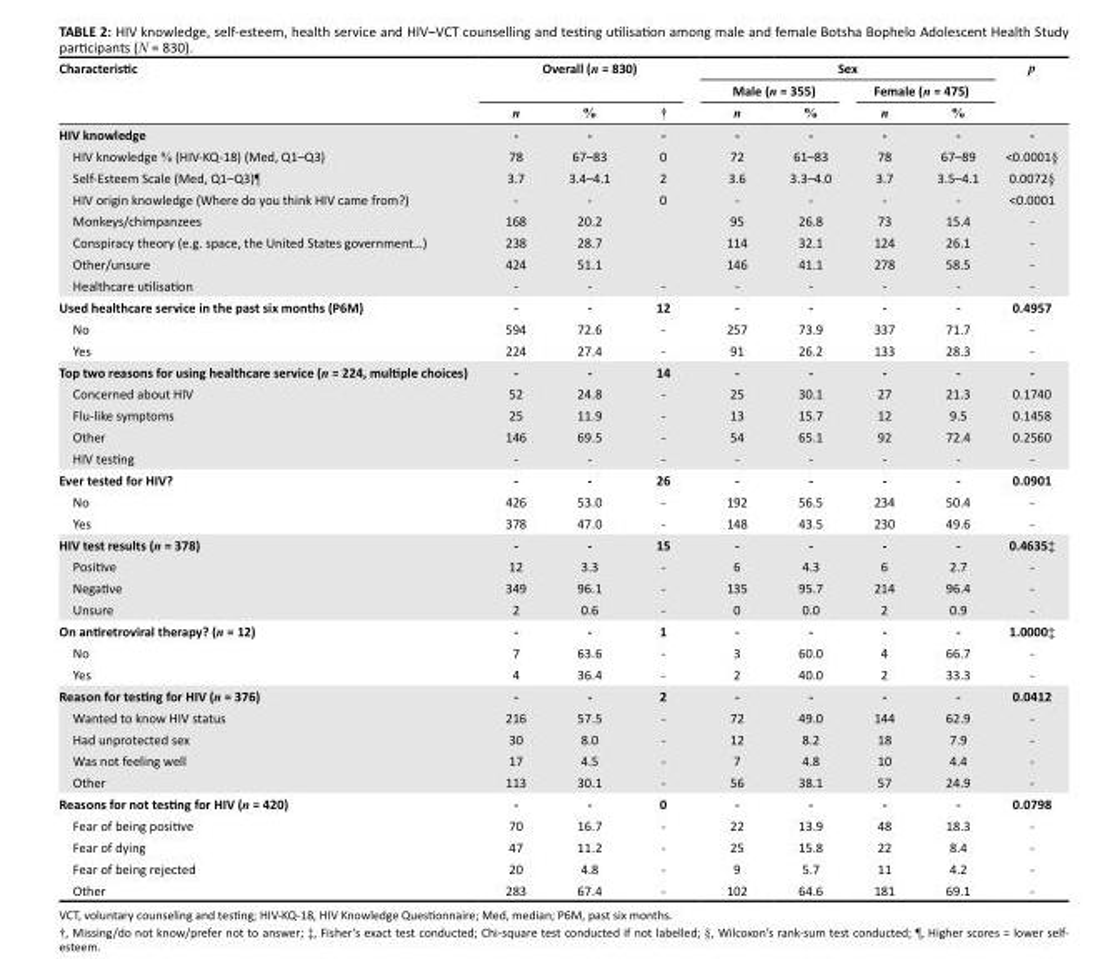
<table><thead><tr><td rowspan="3">Characteristic</td><td rowspan="2" colspan="3">Overall (n = 830)</td><td colspan="4">Sex</td><td rowspan="3">p</td></tr><tr><td colspan="2">Male (n = 355)</td><td colspan="2">Female (n = 475)</td></tr><tr><td>n</td><td>%</td><td>†</td><td>n</td><td>%</td><td>n</td><td>%</td></tr></thead><tbody><tr><td>HIV knowledge</td><td>-</td><td>-</td><td>-</td><td>-</td><td>-</td><td>-</td><td>-</td><td>-</td></tr><tr><td>HIV knowledge % (HIV-KQ-18) (Med, Q1–Q3)</td><td>78</td><td>67–83</td><td>0</td><td>72</td><td>61–83</td><td>78</td><td>67–89</td><td>&lt;0.0001§</td></tr><tr><td>Self-Esteem Scale (Med, Q1–Q3)¶</td><td>3.7</td><td>3.4–4.1</td><td>2</td><td>3.6</td><td>3.3–4.0</td><td>3.7</td><td>3.5–4.1</td><td>0.0072§</td></tr><tr><td>HIV origin knowledge (Where do you think HIV came from?)</td><td>-</td><td>-</td><td>0</td><td>-</td><td>-</td><td>-</td><td>-</td><td>&lt;0.0001</td></tr><tr><td>Monkeys/chimpanzees</td><td>168</td><td>20.2</td><td></td><td>95</td><td>26.8</td><td>73</td><td>15.4</td><td>-</td></tr><tr><td>Conspiracy theory (e.g. space, the United States government…)</td><td>238</td><td>28.7</td><td></td><td>114</td><td>32.1</td><td>124</td><td>26.1</td><td>-</td></tr><tr><td>Other/unsure</td><td>424</td><td>51.1</td><td></td><td>146</td><td>41.1</td><td>278</td><td>58.5</td><td>-</td></tr><tr><td>Healthcare utilisation</td><td>-</td><td>-</td><td>-</td><td>-</td><td>-</td><td>-</td><td>-</td><td>-</td></tr><tr><td>Used healthcare service in the past six months (P6M)</td><td>-</td><td>-</td><td>12</td><td>-</td><td>-</td><td>-</td><td>-</td><td>0.4957</td></tr><tr><td>No</td><td>594</td><td>72.6</td><td>-</td><td>257</td><td>73.9</td><td>337</td><td>71.7</td><td>-</td></tr><tr><td>Yes</td><td>224</td><td>27.4</td><td>-</td><td>91</td><td>26.2</td><td>133</td><td>28.3</td><td>-</td></tr><tr><td>Top two reasons for using healthcare service (n = 224, multiple choices)</td><td>-</td><td>-</td><td>14</td><td>-</td><td>-</td><td>-</td><td>-</td><td>-</td></tr><tr><td>Concerned about HIV</td><td>52</td><td>24.8</td><td>-</td><td>25</td><td>30.1</td><td>27</td><td>21.3</td><td>0.1740</td></tr><tr><td>Flu-like symptoms</td><td>25</td><td>11.9</td><td>-</td><td>13</td><td>15.7</td><td>12</td><td>9.5</td><td>0.1458</td></tr><tr><td>Other</td><td>146</td><td>69.5</td><td>-</td><td>54</td><td>65.1</td><td>92</td><td>72.4</td><td>0.2560</td></tr><tr><td>HIV testing</td><td>-</td><td>-</td><td>-</td><td>-</td><td>-</td><td>-</td><td>-</td><td>-</td></tr><tr><td>Ever tested for HIV?</td><td>-</td><td>-</td><td>26</td><td>-</td><td>-</td><td>-</td><td>-</td><td>0.0901</td></tr><tr><td>No</td><td>426</td><td>53.0</td><td>-</td><td>192</td><td>56.5</td><td>234</td><td>50.4</td><td>-</td></tr><tr><td>Yes</td><td>378</td><td>47.0</td><td>-</td><td>148</td><td>43.5</td><td>230</td><td>49.6</td><td>-</td></tr><tr><td>HIV test results (n = 378)</td><td>-</td><td>-</td><td>15</td><td>-</td><td>-</td><td>-</td><td>-</td><td>0.4635‡</td></tr><tr><td>Positive</td><td>12</td><td>3.3</td><td>-</td><td>6</td><td>4.3</td><td>6</td><td>2.7</td><td>-</td></tr><tr><td>Negative</td><td>349</td><td>96.1</td><td>-</td><td>135</td><td>95.7</td><td>214</td><td>96.4</td><td>-</td></tr><tr><td>Unsure</td><td>2</td><td>0.6</td><td>-</td><td>0</td><td>0.0</td><td>2</td><td>0.9</td><td>-</td></tr><tr><td>On antiretroviral therapy? (n = 12)</td><td>-</td><td>-</td><td>1</td><td>-</td><td>-</td><td>-</td><td>-</td><td>1.0000‡</td></tr><tr><td>No</td><td>7</td><td>63.6</td><td>-</td><td>3</td><td>60.0</td><td>4</td><td>66.7</td><td>-</td></tr><tr><td>Yes</td><td>4</td><td>36.4</td><td>-</td><td>2</td><td>40.0</td><td>2</td><td>33.3</td><td>-</td></tr><tr><td>Reason for testing for HIV (n = 376)</td><td>-</td><td>-</td><td>2</td><td>-</td><td>-</td><td>-</td><td>-</td><td>0.0412</td></tr><tr><td>Wanted to know HIV status</td><td>216</td><td>57.5</td><td>-</td><td>72</td><td>49.0</td><td>144</td><td>62.9</td><td>-</td></tr><tr><td>Had unprotected sex</td><td>30</td><td>8.0</td><td>-</td><td>12</td><td>8.2</td><td>18</td><td>7.9</td><td>-</td></tr><tr><td>Was not feeling well</td><td>17</td><td>4.5</td><td>-</td><td>7</td><td>4.8</td><td>10</td><td>4.4</td><td>-</td></tr><tr><td>Other</td><td>113</td><td>30.1</td><td>-</td><td>56</td><td>38.1</td><td>57</td><td>24.9</td><td>-</td></tr><tr><td>Reasons for not testing for HIV (n = 420)</td><td>-</td><td>-</td><td>0</td><td>-</td><td>-</td><td>-</td><td>-</td><td>0.0798</td></tr><tr><td>Fear of being positive</td><td>70</td><td>16.7</td><td>-</td><td>22</td><td>13.9</td><td>48</td><td>18.3</td><td>-</td></tr><tr><td>Fear of dying</td><td>47</td><td>11.2</td><td>-</td><td>25</td><td>15.8</td><td>22</td><td>8.4</td><td>-</td></tr><tr><td>Fear of being rejected</td><td>20</td><td>4.8</td><td>-</td><td>9</td><td>5.7</td><td>11</td><td>4.2</td><td>-</td></tr><tr><td>Other</td><td>283</td><td>67.4</td><td>-</td><td>102</td><td>64.6</td><td>181</td><td>69.1</td><td>-</td></tr></tbody></table>